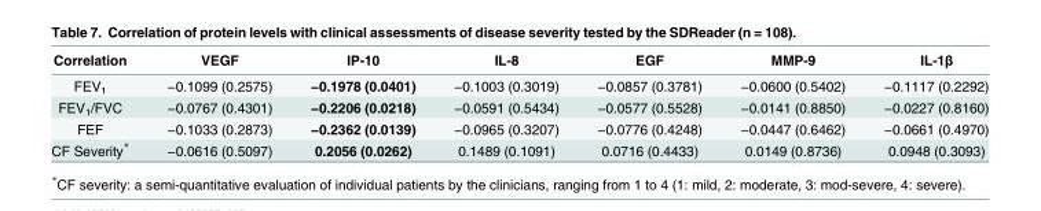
<table><thead><tr><td>Correlation</td><td>VEGF</td><td>IP-10</td><td>IL-8</td><td>EGF</td><td>MMP-9</td><td>IL-1β</td></tr></thead><tbody><tr><td>FEV<sub>1</sub></td><td>−0.1099 (0.2575)</td><td>−0.1978 (0.0401)</td><td>−0.1003 (0.3019)</td><td>−0.0857 (0.3781)</td><td>−0.0600 (0.5402)</td><td>−0.1117 (0.2292)</td></tr><tr><td>FEV<sub>1</sub>/FVC</td><td>−0.0767 (0.4301)</td><td>−0.2206 (0.0218)</td><td>−0.0591 (0.5434)</td><td>−0.0577 (0.5528)</td><td>−0.0141 (0.8850)</td><td>−0.0227 (0.8160)</td></tr><tr><td>FEF</td><td>−0.1033 (0.2873)</td><td>−0.2362 (0.0139)</td><td>−0.0965 (0.3207)</td><td>−0.0776 (0.4248)</td><td>−0.0447 (0.6462)</td><td>−0.0661 (0.4970)</td></tr><tr><td>CF Severity*</td><td>−0.0616 (0.5097)</td><td>0.2056 (0.0262)</td><td>0.1489 (0.1091)</td><td>0.0716 (0.4433)</td><td>0.0149 (0.8736)</td><td>0.0948 (0.3093)</td></tr></tbody></table>